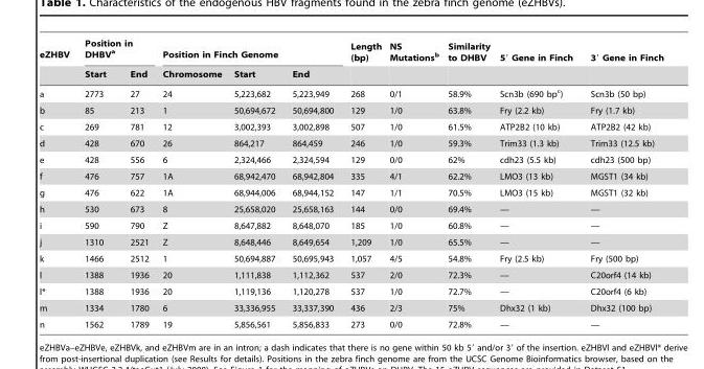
<table><thead><tr><td rowspan="2">eZHBV</td><td colspan="2">Position in DHBV<sup>a</sup></td><td colspan="3">Position in Finch Genome</td><td rowspan="2">Length (bp)</td><td rowspan="2">NS Mutations<sup>b</sup></td><td rowspan="2">Similarity to DHBV</td><td rowspan="2">5′ Gene in Finch</td><td rowspan="2">3′ Gene in Finch</td></tr><tr><td>Start</td><td>End</td><td>Chromosome</td><td>Start</td><td>End</td></tr></thead><tbody><tr><td>a</td><td>2773</td><td>27</td><td>24</td><td>5,223,682</td><td>5,223,949</td><td>268</td><td>0/1</td><td>58.9%</td><td>Scn3b (690 bp<sup>c</sup>)</td><td>Scn3b (50 bp)</td></tr><tr><td>b</td><td>85</td><td>213</td><td>1</td><td>50,694,672</td><td>50,694,800</td><td>129</td><td>1/0</td><td>63.8%</td><td>Fry (2.2 kb)</td><td>Fry (1.7 kb)</td></tr><tr><td>c</td><td>269</td><td>781</td><td>12</td><td>3,002,393</td><td>3,002,898</td><td>507</td><td>1/0</td><td>61.5%</td><td>ATP2B2 (10 kb)</td><td>ATP2B2 (42 kb)</td></tr><tr><td>d</td><td>428</td><td>670</td><td>26</td><td>864,217</td><td>864,459</td><td>246</td><td>1/0</td><td>59.3%</td><td>Trim33 (1.3 kb)</td><td>Trim33 (12.5 kb)</td></tr><tr><td>e</td><td>428</td><td>556</td><td>6</td><td>2,324,466</td><td>2,324,594</td><td>129</td><td>0/0</td><td>62%</td><td>cdh23 (5.5 kb)</td><td>cdh23 (500 bp)</td></tr><tr><td>f</td><td>476</td><td>757</td><td>1A</td><td>68,942,470</td><td>68,942,804</td><td>335</td><td>4/1</td><td>62.2%</td><td>LMO3 (13 kb)</td><td>MGST1 (34 kb)</td></tr><tr><td>g</td><td>476</td><td>622</td><td>1A</td><td>68,944,006</td><td>68,944,152</td><td>147</td><td>1/1</td><td>70.5%</td><td>LMO3 (15 kb)</td><td>MGST1 (32 kb)</td></tr><tr><td>h</td><td>530</td><td>673</td><td>8</td><td>25,658,020</td><td>25,658,163</td><td>144</td><td>0/0</td><td>69.4%</td><td>—</td><td>—</td></tr><tr><td>i</td><td>590</td><td>790</td><td>Z</td><td>8,647,882</td><td>8,648,070</td><td>185</td><td>1/0</td><td>60.8%</td><td>—</td><td>—</td></tr><tr><td>j</td><td>1310</td><td>2521</td><td>Z</td><td>8,648,446</td><td>8,649,654</td><td>1,209</td><td>1/0</td><td>65.5%</td><td>—</td><td>—</td></tr><tr><td>k</td><td>1466</td><td>2512</td><td>1</td><td>50,694,887</td><td>50,695,943</td><td>1,057</td><td>4/5</td><td>54.8%</td><td>Fry (2.5 kb)</td><td>Fry (500 bp)</td></tr><tr><td>l</td><td>1388</td><td>1936</td><td>20</td><td>1,111,838</td><td>1,112,362</td><td>537</td><td>2/0</td><td>72.3%</td><td>—</td><td>C20orf4 (14 kb)</td></tr><tr><td>l*</td><td>1388</td><td>1936</td><td>20</td><td>1,119,136</td><td>1,120,278</td><td>537</td><td>1/0</td><td>72.7%</td><td>—</td><td>C20orf4 (6 kb)</td></tr><tr><td>m</td><td>1334</td><td>1780</td><td>6</td><td>33,336,955</td><td>33,337,390</td><td>436</td><td>2/3</td><td>75%</td><td>Dhx32 (1 kb)</td><td>Dhx32 (100 bp)</td></tr><tr><td>n</td><td>1562</td><td>1789</td><td>19</td><td>5,856,561</td><td>5,856,833</td><td>273</td><td>0/0</td><td>72.8%</td><td>—</td><td>—</td></tr></tbody></table>